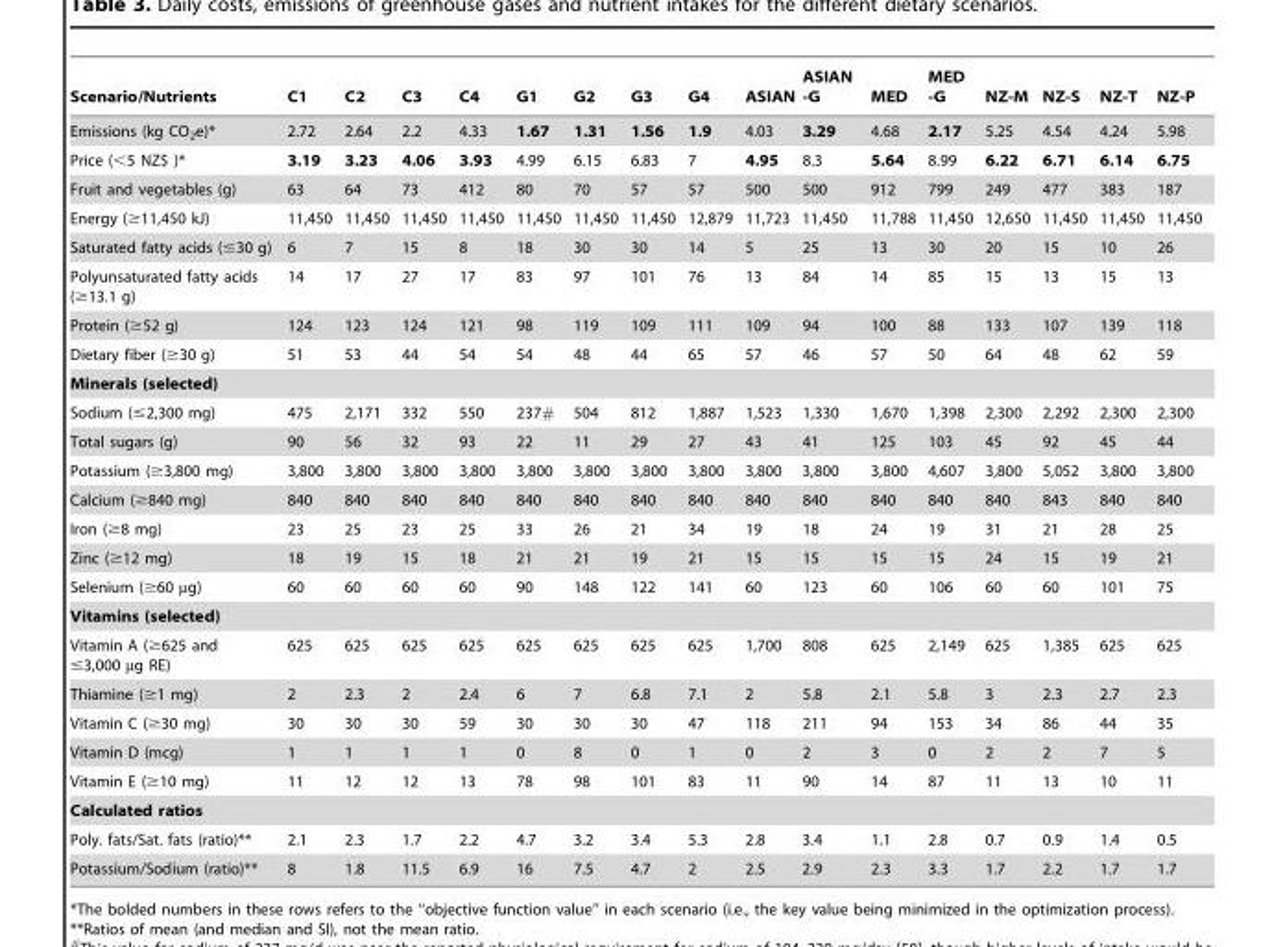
<table><thead><tr><td>Scenario/Nutrients</td><td>C1</td><td>C2</td><td>C3</td><td>C4</td><td>G1</td><td>G2</td><td>G3</td><td>G4</td><td>ASIAN</td><td>ASIAN -G</td><td>MED</td><td>MED -G</td><td>NZ-M</td><td>NZ-S</td><td>NZ-T</td><td>NZ-P</td></tr></thead><tbody><tr><td>Emissions (kg CO<sub>2</sub>e)*</td><td>2.72</td><td>2.64</td><td>2.2</td><td>4.33</td><td>1.67</td><td>1.31</td><td>1.56</td><td>1.9</td><td>4.03</td><td>3.29</td><td>4.68</td><td>2.17</td><td>5.25</td><td>4.54</td><td>4.24</td><td>5.98</td></tr><tr><td>Price (&lt;5 NZ$ )*</td><td>3.19</td><td>3.23</td><td>4.06</td><td>3.93</td><td>4.99</td><td>6.15</td><td>6.83</td><td>7</td><td>4.95</td><td>8.3</td><td>5.64</td><td>8.99</td><td>6.22</td><td>6.71</td><td>6.14</td><td>6.75</td></tr><tr><td>Fruit and vegetables (g)</td><td>63</td><td>64</td><td>73</td><td>412</td><td>80</td><td>70</td><td>57</td><td>57</td><td>500</td><td>500</td><td>912</td><td>799</td><td>249</td><td>477</td><td>383</td><td>187</td></tr><tr><td>Energy (≥11,450 kJ)</td><td>11,450</td><td>11,450</td><td>11,450</td><td>11,450</td><td>11,450</td><td>11,450</td><td>11,450</td><td>12,879</td><td>11,723</td><td>11,450</td><td>11,788</td><td>11,450</td><td>12,650</td><td>11,450</td><td>11,450</td><td>11,450</td></tr><tr><td>Saturated fatty acids (≤30 g)</td><td>6</td><td>7</td><td>15</td><td>8</td><td>18</td><td>30</td><td>30</td><td>14</td><td>5</td><td>25</td><td>13</td><td>30</td><td>20</td><td>15</td><td>10</td><td>26</td></tr><tr><td>Polyunsaturated fatty acids (≥13.1 g)</td><td>14</td><td>17</td><td>27</td><td>17</td><td>83</td><td>97</td><td>101</td><td>76</td><td>13</td><td>84</td><td>14</td><td>85</td><td>15</td><td>13</td><td>15</td><td>13</td></tr><tr><td>Protein (≥52 g)</td><td>124</td><td>123</td><td>124</td><td>121</td><td>98</td><td>119</td><td>109</td><td>111</td><td>109</td><td>94</td><td>100</td><td>88</td><td>133</td><td>107</td><td>139</td><td>118</td></tr><tr><td>Dietary fiber (≥30 g)</td><td>51</td><td>53</td><td>44</td><td>54</td><td>54</td><td>48</td><td>44</td><td>65</td><td>57</td><td>46</td><td>57</td><td>50</td><td>64</td><td>48</td><td>62</td><td>59</td></tr><tr><td colspan="17">Minerals (selected)</td></tr><tr><td>Sodium (≤2,300 mg)</td><td>475</td><td>2,171</td><td>332</td><td>550</td><td>237#</td><td>504</td><td>812</td><td>1,887</td><td>1,523</td><td>1,330</td><td>1,670</td><td>1,398</td><td>2,300</td><td>2,292</td><td>2,300</td><td>2,300</td></tr><tr><td>Total sugars (g)</td><td>90</td><td>56</td><td>32</td><td>93</td><td>22</td><td>11</td><td>29</td><td>27</td><td>43</td><td>41</td><td>125</td><td>103</td><td>45</td><td>92</td><td>45</td><td>44</td></tr><tr><td>Potassium (≥3,800 mg)</td><td>3,800</td><td>3,800</td><td>3,800</td><td>3,800</td><td>3,800</td><td>3,800</td><td>3,800</td><td>3,800</td><td>3,800</td><td>3,800</td><td>3,800</td><td>4,607</td><td>3,800</td><td>5,052</td><td>3,800</td><td>3,800</td></tr><tr><td>Calcium (≥840 mg)</td><td>840</td><td>840</td><td>840</td><td>840</td><td>840</td><td>840</td><td>840</td><td>840</td><td>840</td><td>840</td><td>840</td><td>840</td><td>840</td><td>843</td><td>840</td><td>840</td></tr><tr><td>Iron (≥8 mg)</td><td>23</td><td>25</td><td>23</td><td>25</td><td>33</td><td>26</td><td>21</td><td>34</td><td>19</td><td>18</td><td>24</td><td>19</td><td>31</td><td>21</td><td>28</td><td>25</td></tr><tr><td>Zinc (≥12 mg)</td><td>18</td><td>19</td><td>15</td><td>18</td><td>21</td><td>21</td><td>19</td><td>21</td><td>15</td><td>15</td><td>15</td><td>15</td><td>24</td><td>15</td><td>19</td><td>21</td></tr><tr><td>Selenium (≥60 µg)</td><td>60</td><td>60</td><td>60</td><td>60</td><td>90</td><td>148</td><td>122</td><td>141</td><td>60</td><td>123</td><td>60</td><td>106</td><td>60</td><td>60</td><td>101</td><td>75</td></tr><tr><td colspan="17">Vitamins (selected)</td></tr><tr><td>Vitamin A (≥625 and ≤3,000 µg RE)</td><td>625</td><td>625</td><td>625</td><td>625</td><td>625</td><td>625</td><td>625</td><td>625</td><td>1,700</td><td>808</td><td>625</td><td>2,149</td><td>625</td><td>1,385</td><td>625</td><td>625</td></tr><tr><td>Thiamine (≥1 mg)</td><td>2</td><td>2.3</td><td>2</td><td>2.4</td><td>6</td><td>7</td><td>6.8</td><td>7.1</td><td>2</td><td>5.8</td><td>2.1</td><td>5.8</td><td>3</td><td>2.3</td><td>2.7</td><td>2.3</td></tr><tr><td>Vitamin C (≥30 mg)</td><td>30</td><td>30</td><td>30</td><td>59</td><td>30</td><td>30</td><td>30</td><td>47</td><td>118</td><td>211</td><td>94</td><td>153</td><td>34</td><td>86</td><td>44</td><td>35</td></tr><tr><td>Vitamin D (mcg)</td><td>1</td><td>1</td><td>1</td><td>1</td><td>0</td><td>8</td><td>0</td><td>1</td><td>0</td><td>2</td><td>3</td><td>0</td><td>2</td><td>2</td><td>7</td><td>5</td></tr><tr><td>Vitamin E (≥10 mg)</td><td>11</td><td>12</td><td>12</td><td>13</td><td>78</td><td>98</td><td>101</td><td>83</td><td>11</td><td>90</td><td>14</td><td>87</td><td>11</td><td>13</td><td>10</td><td>11</td></tr><tr><td colspan="17">Calculated ratios</td></tr><tr><td>Poly. fats/Sat. fats (ratio)**</td><td>2.1</td><td>2.3</td><td>1.7</td><td>2.2</td><td>4.7</td><td>3.2</td><td>3.4</td><td>5.3</td><td>2.8</td><td>3.4</td><td>1.1</td><td>2.8</td><td>0.7</td><td>0.9</td><td>1.4</td><td>0.5</td></tr><tr><td>Potassium/Sodium (ratio)**</td><td>8</td><td>1.8</td><td>11.5</td><td>6.9</td><td>16</td><td>7.5</td><td>4.7</td><td>2</td><td>2.5</td><td>2.9</td><td>2.3</td><td>3.3</td><td>1.7</td><td>2.2</td><td>1.7</td><td>1.7</td></tr></tbody></table>